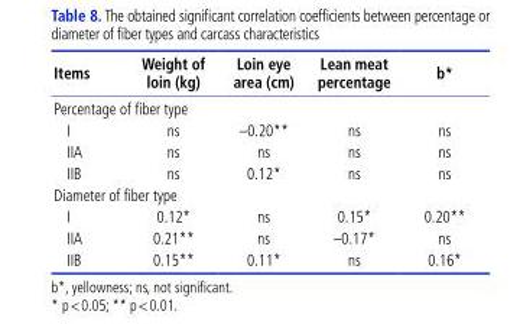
<table><thead><tr><td>Items</td><td>Weight of loin (kg)</td><td>Loin eye area (cm)</td><td>Lean meat percentage</td><td>b*</td></tr></thead><tbody><tr><td colspan="5">Percentage of fiber type</td></tr><tr><td>I</td><td>ns</td><td>–0.20**</td><td>ns</td><td>ns</td></tr><tr><td>IIA</td><td>ns</td><td>ns</td><td>ns</td><td>ns</td></tr><tr><td>IIB</td><td>ns</td><td>0.12*</td><td>ns</td><td>ns</td></tr><tr><td colspan="5">Diameter of fiber type</td></tr><tr><td>I</td><td>0.12*</td><td>ns</td><td>0.15*</td><td>0.20**</td></tr><tr><td>IIA</td><td>0.21**</td><td>ns</td><td>–0.17*</td><td>ns</td></tr><tr><td>IIB</td><td>0.15**</td><td>0.11*</td><td>ns</td><td>0.16*</td></tr></tbody></table>